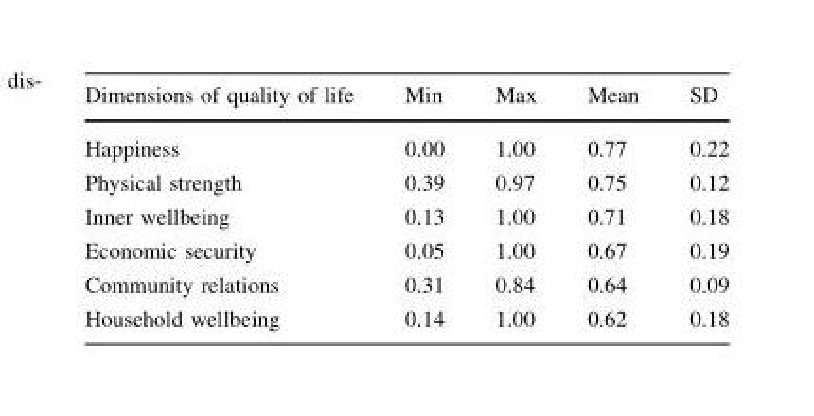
<table><thead><tr><td>Dimensions of quality of life</td><td>Min</td><td>Max</td><td>Mean</td><td>SD</td></tr></thead><tbody><tr><td>Happiness</td><td>0.00</td><td>1.00</td><td>0.77</td><td>0.22</td></tr><tr><td>Physical strength</td><td>0.39</td><td>0.97</td><td>0.75</td><td>0.12</td></tr><tr><td>Inner wellbeing</td><td>0.13</td><td>1.00</td><td>0.71</td><td>0.18</td></tr><tr><td>Economic security</td><td>0.05</td><td>1.00</td><td>0.67</td><td>0.19</td></tr><tr><td>Community relations</td><td>0.31</td><td>0.84</td><td>0.64</td><td>0.09</td></tr><tr><td>Household wellbeing</td><td>0.14</td><td>1.00</td><td>0.62</td><td>0.18</td></tr></tbody></table>